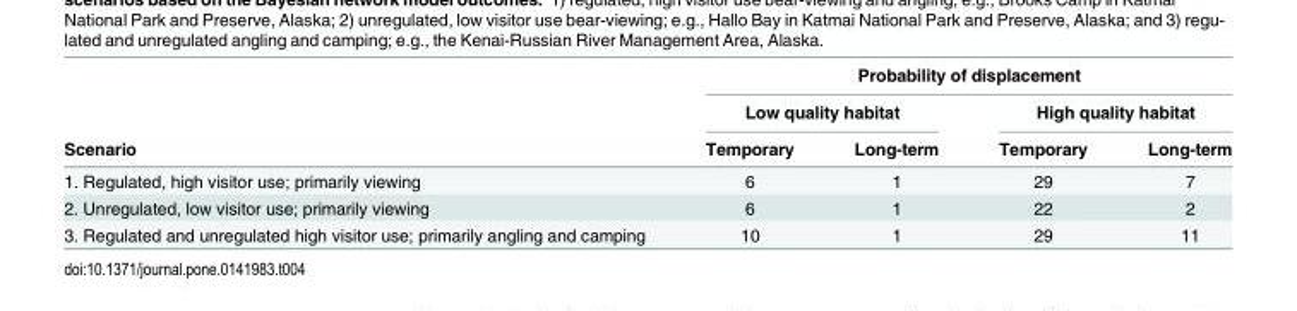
<table><thead><tr><td rowspan="3">Scenario</td><td colspan="4">Probability of displacement</td></tr><tr><td colspan="2">Low quality habitat</td><td colspan="2">High quality habitat</td></tr><tr><td>Temporary</td><td>Long-term</td><td>Temporary</td><td>Long-term</td></tr></thead><tbody><tr><td>1. Regulated, high visitor use; primarily viewing</td><td>6</td><td>1</td><td>29</td><td>7</td></tr><tr><td>2. Unregulated, low visitor use; primarily viewing</td><td>6</td><td>1</td><td>22</td><td>2</td></tr><tr><td>3. Regulated and unregulated high visitor use; primarily angling and camping</td><td>10</td><td>1</td><td>29</td><td>11</td></tr></tbody></table>